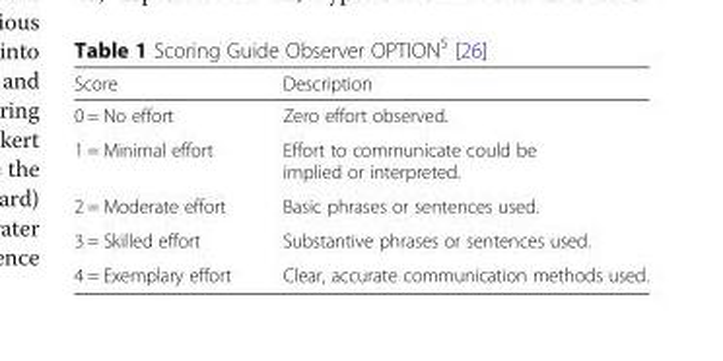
<table><thead><tr><td>Score</td><td>Description</td></tr></thead><tbody><tr><td>0 = No effort</td><td>Zero effort observed.</td></tr><tr><td>1 = Minimal effort</td><td>Effort to communicate could be implied or interpreted.</td></tr><tr><td>2 = Moderate effort</td><td>Basic phrases or sentences used.</td></tr><tr><td>3 = Skilled effort</td><td>Substantive phrases or sentences used.</td></tr><tr><td>4 = Exemplary effort</td><td>Clear, accurate communication methods used.</td></tr></tbody></table>